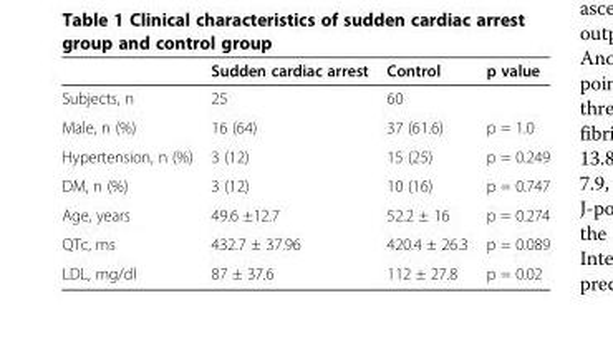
<table><thead><tr><td></td><td>Sudden cardiac arrest</td><td>Control</td><td>p value</td></tr></thead><tbody><tr><td>Subjects, n</td><td>25</td><td>60</td><td></td></tr><tr><td>Male, n (%)</td><td>16 (64)</td><td>37 (61.6)</td><td>p = 1.0</td></tr><tr><td>Hypertension, n (%)</td><td>3 (12)</td><td>15 (25)</td><td>p = 0.249</td></tr><tr><td>DM, n (%)</td><td>3 (12)</td><td>10 (16)</td><td>p = 0.747</td></tr><tr><td>Age, years</td><td>49.6 ±12.7</td><td>52.2 ± 16</td><td>p = 0.274</td></tr><tr><td>QTc, ms</td><td>432.7 ± 37.96</td><td>420.4 ± 26.3</td><td>p = 0.089</td></tr><tr><td>LDL, mg/dl</td><td>87 ± 37.6</td><td>112 ± 27.8</td><td>p = 0.02</td></tr></tbody></table>